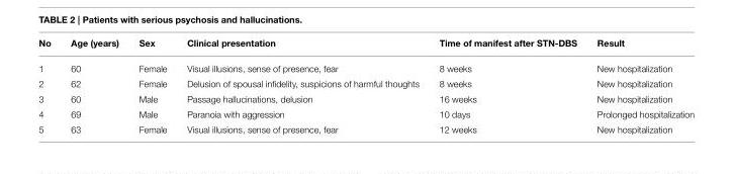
<table><thead><tr><td>No</td><td>Age (years)</td><td>Sex</td><td>Clinical presentation</td><td>Time of manifest after STN-DBS</td><td>Result</td></tr></thead><tbody><tr><td>1</td><td>60</td><td>Female</td><td>Visual illusions, sense of presence, fear</td><td>8 weeks</td><td>New hospitalization</td></tr><tr><td>2</td><td>62</td><td>Female</td><td>Delusion of spousal infidelity, suspicions of harmful thoughts</td><td>8 weeks</td><td>New hospitalization</td></tr><tr><td>3</td><td>60</td><td>Male</td><td>Passage hallucinations, delusion</td><td>16 weeks</td><td>New hospitalization</td></tr><tr><td>4</td><td>69</td><td>Male</td><td>Paranoia with aggression</td><td>10 days</td><td>Prolonged hospitalization</td></tr><tr><td>5</td><td>63</td><td>Female</td><td>Visual illusions, sense of presence, fear</td><td>12 weeks</td><td>New hospitalization</td></tr></tbody></table>